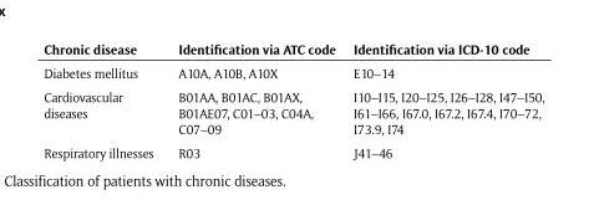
<table><thead><tr><td>Chronic disease</td><td>Identification via ATC code</td><td>Identification via ICD-10 code</td></tr></thead><tbody><tr><td>Diabetes mellitus</td><td>A10A, A10B, A10X</td><td>E10–14</td></tr><tr><td>Cardiovascular diseases</td><td>B01AA, B01AC, B01AX, B01AE07, C01–03, C04A, C07–09</td><td>I10–I15, I20–I25, I26–I28, I47–I50, I61–I66, I67.0, I67.2, I67.4, I70–72, I73.9, I74</td></tr><tr><td>Respiratory illnesses</td><td>R03</td><td>J41–46</td></tr></tbody></table>